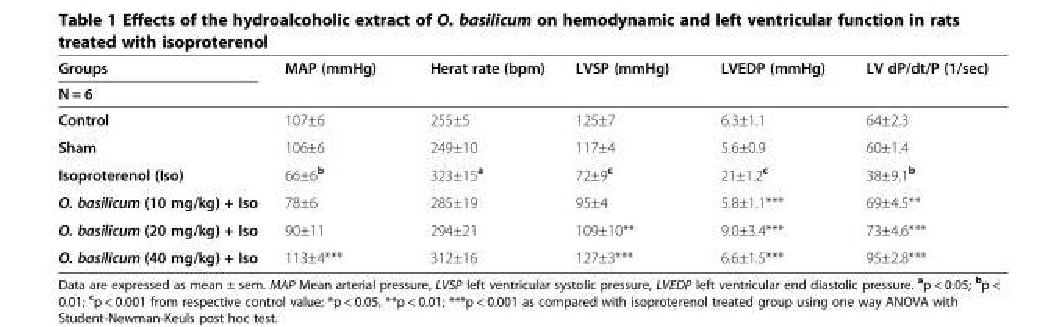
<table><thead><tr><td rowspan="2">Groups N = 6</td><td rowspan="2">MAP (mmHg)</td><td rowspan="2">Herat rate (bpm)</td><td rowspan="2">LVSP (mmHg)</td><td rowspan="2">LVEDP (mmHg)</td><td rowspan="2">LV dP/dt/P (1/sec)</td></tr><tr></tr></thead><tbody><tr><td>Control</td><td>107±6</td><td>255±5</td><td>125±7</td><td>6.3±1.1</td><td>64±2.3</td></tr><tr><td>Sham</td><td>106±6</td><td>249±10</td><td>117±4</td><td>5.6±0.9</td><td>60±1.4</td></tr><tr><td>Isoproterenol (Iso)</td><td>66±6<sup>b</sup></td><td>323±15<sup>a</sup></td><td>72±9<sup>c</sup></td><td>21±1.2<sup>c</sup></td><td>38±9.1<sup>b</sup></td></tr><tr><td>O. basilicum (10 mg/kg) + Iso</td><td>78±6</td><td>285±19</td><td>95±4</td><td>5.8±1.1***</td><td>69±4.5**</td></tr><tr><td>O. basilicum (20 mg/kg) + Iso</td><td>90±11</td><td>294±21</td><td>109±10**</td><td>9.0±3.4***</td><td>73±4.6***</td></tr><tr><td>O. basilicum (40 mg/kg) + Iso</td><td>113±4***</td><td>312±16</td><td>127±3***</td><td>6.6±1.5***</td><td>95±2.8***</td></tr></tbody></table>